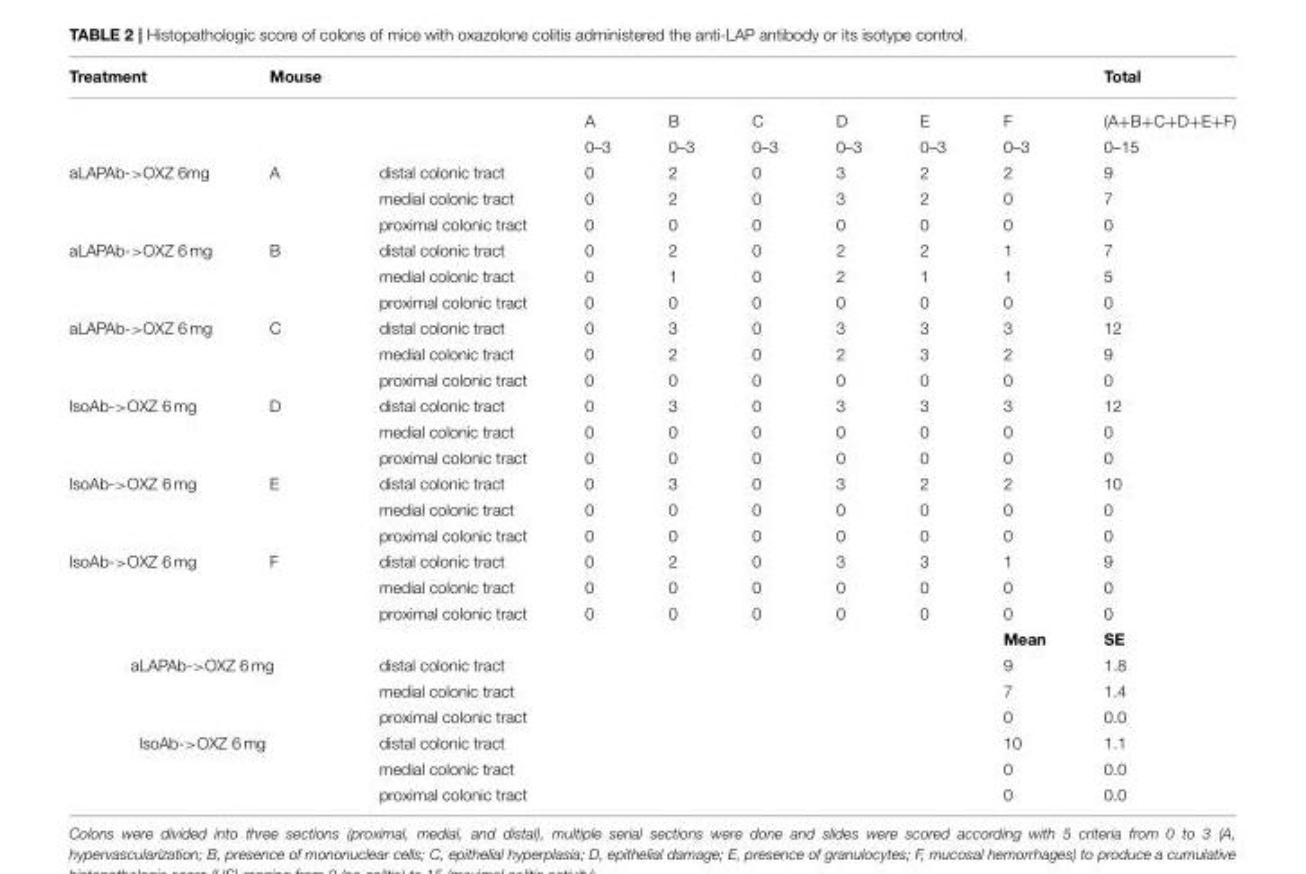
<table><thead><tr><td>Treatment</td><td>Mouse</td><td></td><td></td><td></td><td></td><td></td><td></td><td></td><td>Total</td></tr></thead><tbody><tr><td></td><td></td><td></td><td>A</td><td>B</td><td>C</td><td>D</td><td>E</td><td>F</td><td>(A+B+C+D+E+F)</td></tr><tr><td></td><td></td><td></td><td>0–3</td><td>0–3</td><td>0–3</td><td>0–3</td><td>0–3</td><td>0–3</td><td>0–15</td></tr><tr><td rowspan="3">aLAPAb-&gt;OXZ 6mg</td><td>A</td><td>distal colonic tract</td><td>0</td><td>2</td><td>0</td><td>3</td><td>2</td><td>2</td><td>9</td></tr><tr><td></td><td>medial colonic tract</td><td>0</td><td>2</td><td>0</td><td>3</td><td>2</td><td>0</td><td>7</td></tr><tr><td></td><td>proximal colonic tract</td><td>0</td><td>0</td><td>0</td><td>0</td><td>0</td><td>0</td><td>0</td></tr><tr><td rowspan="3">aLAPAb-&gt;OXZ 6 mg</td><td>B</td><td>distal colonic tract</td><td>0</td><td>2</td><td>0</td><td>2</td><td>2</td><td>1</td><td>7</td></tr><tr><td></td><td>medial colonic tract</td><td>0</td><td>1</td><td>0</td><td>2</td><td>1</td><td>1</td><td>5</td></tr><tr><td></td><td>proximal colonic tract</td><td>0</td><td>0</td><td>0</td><td>0</td><td>0</td><td>0</td><td>0</td></tr><tr><td rowspan="3">aLAPAb-&gt;OXZ 6 mg</td><td>C</td><td>distal colonic tract</td><td>0</td><td>3</td><td>0</td><td>3</td><td>3</td><td>3</td><td>12</td></tr><tr><td></td><td>medial colonic tract</td><td>0</td><td>2</td><td>0</td><td>2</td><td>3</td><td>2</td><td>9</td></tr><tr><td></td><td>proximal colonic tract</td><td>0</td><td>0</td><td>0</td><td>0</td><td>0</td><td>0</td><td>0</td></tr><tr><td rowspan="3">IsoAb-&gt;OXZ 6 mg</td><td>D</td><td>distal colonic tract</td><td>0</td><td>3</td><td>0</td><td>3</td><td>3</td><td>3</td><td>12</td></tr><tr><td></td><td>medial colonic tract</td><td>0</td><td>0</td><td>0</td><td>0</td><td>0</td><td>0</td><td>0</td></tr><tr><td></td><td>proximal colonic tract</td><td>0</td><td>0</td><td>0</td><td>0</td><td>0</td><td>0</td><td>0</td></tr><tr><td rowspan="3">IsoAb-&gt;OXZ 6 mg</td><td>E</td><td>distal colonic tract</td><td>0</td><td>3</td><td>0</td><td>3</td><td>2</td><td>2</td><td>10</td></tr><tr><td></td><td>medial colonic tract</td><td>0</td><td>0</td><td>0</td><td>0</td><td>0</td><td>0</td><td>0</td></tr><tr><td></td><td>proximal colonic tract</td><td>0</td><td>0</td><td>0</td><td>0</td><td>0</td><td>0</td><td>0</td></tr><tr><td rowspan="4">IsoAb-&gt;OXZ 6 mg</td><td>F</td><td>distal colonic tract</td><td>0</td><td>2</td><td>0</td><td>3</td><td>3</td><td>1</td><td>9</td></tr><tr><td></td><td>medial colonic tract</td><td>0</td><td>0</td><td>0</td><td>0</td><td>0</td><td>0</td><td>0</td></tr><tr><td></td><td>proximal colonic tract</td><td>0</td><td>0</td><td>0</td><td>0</td><td>0</td><td>0</td><td>0</td></tr><tr><td></td><td></td><td></td><td></td><td></td><td></td><td></td><td>Mean</td><td>SE</td></tr><tr><td colspan="2">aLAPAb-&gt;OXZ 6 mg</td><td>distal colonic tract</td><td></td><td></td><td></td><td></td><td></td><td>9</td><td>1.8</td></tr><tr><td></td><td></td><td>medial colonic tract</td><td></td><td></td><td></td><td></td><td></td><td>7</td><td>1.4</td></tr><tr><td></td><td></td><td>proximal colonic tract</td><td></td><td></td><td></td><td></td><td></td><td>0</td><td>0.0</td></tr><tr><td colspan="2">IsoAb-&gt;OXZ 6 mg</td><td>distal colonic tract</td><td></td><td></td><td></td><td></td><td></td><td>10</td><td>1.1</td></tr><tr><td></td><td></td><td>medial colonic tract</td><td></td><td></td><td></td><td></td><td></td><td>0</td><td>0.0</td></tr><tr><td></td><td></td><td>proximal colonic tract</td><td></td><td></td><td></td><td></td><td></td><td>0</td><td>0.0</td></tr></tbody></table>